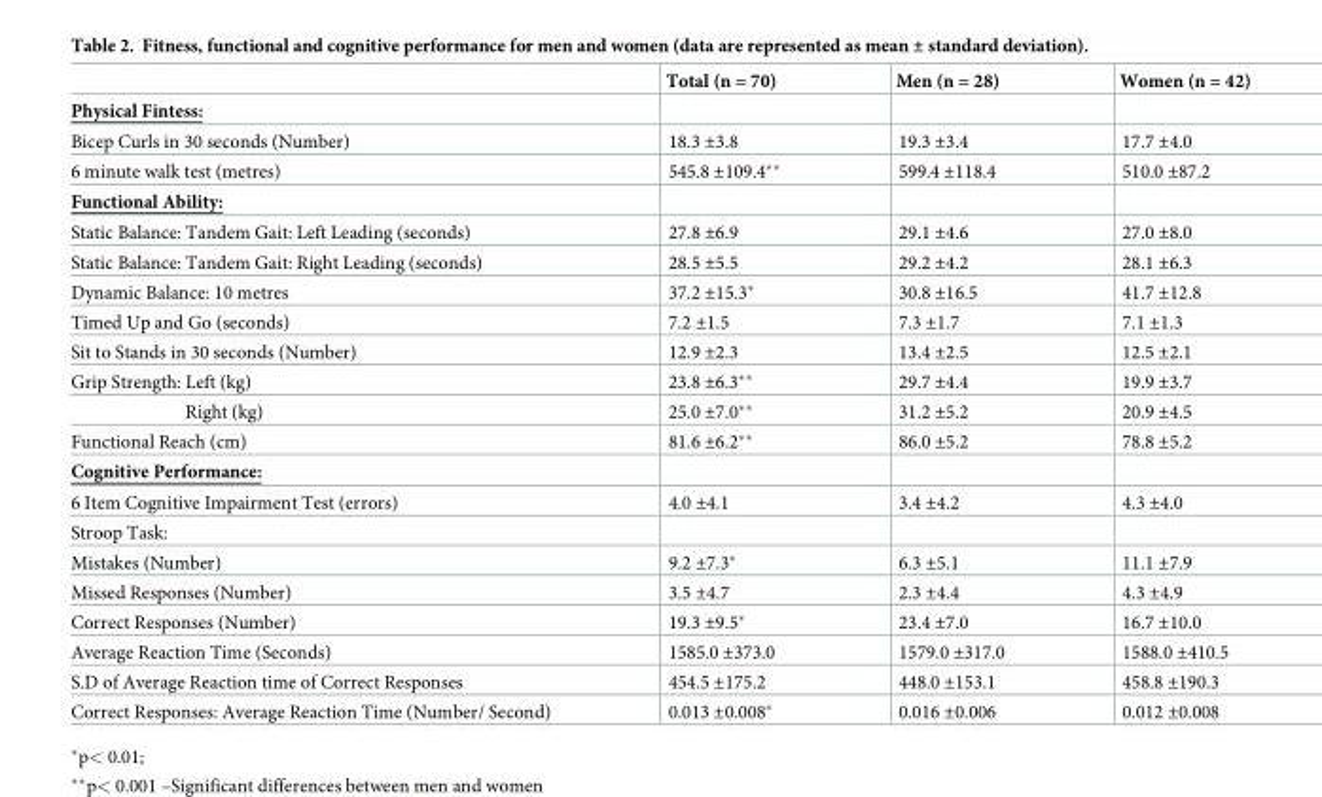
<table><thead><tr><td></td><td>Total (n = 70)</td><td>Men (n = 28)</td><td>Women (n = 42)</td></tr></thead><tbody><tr><td colspan="4">Physical Fintess:</td></tr><tr><td>Bicep Curls in 30 seconds (Number)</td><td>18.3 ±3.8</td><td>19.3 ±3.4</td><td>17.7 ±4.0</td></tr><tr><td>6 minute walk test (metres)</td><td>545.8 ±109.4**</td><td>599.4 ±118.4</td><td>510.0 ±87.2</td></tr><tr><td colspan="4">Functional Ability:</td></tr><tr><td>Static Balance: Tandem Gait: Left Leading (seconds)</td><td>27.8 ±6.9</td><td>29.1 ±4.6</td><td>27.0 ±8.0</td></tr><tr><td>Static Balance: Tandem Gait: Right Leading (seconds)</td><td>28.5 ±5.5</td><td>29.2 ±4.2</td><td>28.1 ±6.3</td></tr><tr><td>Dynamic Balance: 10 metres</td><td>37.2 ±15.3*</td><td>30.8 ±16.5</td><td>41.7 ±12.8</td></tr><tr><td>Timed Up and Go (seconds)</td><td>7.2 ±1.5</td><td>7.3 ±1.7</td><td>7.1 ±1.3</td></tr><tr><td>Sit to Stands in 30 seconds (Number)</td><td>12.9 ±2.3</td><td>13.4 ±2.5</td><td>12.5 ±2.1</td></tr><tr><td>Grip Strength: Left (kg)</td><td>23.8 ±6.3**</td><td>29.7 ±4.4</td><td>19.9 ±3.7</td></tr><tr><td>Right (kg)</td><td>25.0 ±7.0**</td><td>31.2 ±5.2</td><td>20.9 ±4.5</td></tr><tr><td>Functional Reach (cm)</td><td>81.6 ±6.2**</td><td>86.0 ±5.2</td><td>78.8 ±5.2</td></tr><tr><td colspan="4">Cognitive Performance:</td></tr><tr><td>6 Item Cognitive Impairment Test (errors)</td><td>4.0 ±4.1</td><td>3.4 ±4.2</td><td>4.3 ±4.0</td></tr><tr><td colspan="4">Stroop Task:</td></tr><tr><td>Mistakes (Number)</td><td>9.2 ±7.3*</td><td>6.3 ±5.1</td><td>11.1 ±7.9</td></tr><tr><td>Missed Responses (Number)</td><td>3.5 ±4.7</td><td>2.3 ±4.4</td><td>4.3 ±4.9</td></tr><tr><td>Correct Responses (Number)</td><td>19.3 ±9.5*</td><td>23.4 ±7.0</td><td>16.7 ±10.0</td></tr><tr><td>Average Reaction Time (Seconds)</td><td>1585.0 ±373.0</td><td>1579.0 ±317.0</td><td>1588.0 ±410.5</td></tr><tr><td>S.D of Average Reaction time of Correct Responses</td><td>454.5 ±175.2</td><td>448.0 ±153.1</td><td>458.8 ±190.3</td></tr><tr><td>Correct Responses: Average Reaction Time (Number/ Second)</td><td>0.013 ±0.008*</td><td>0.016 ±0.006</td><td>0.012 ±0.008</td></tr></tbody></table>